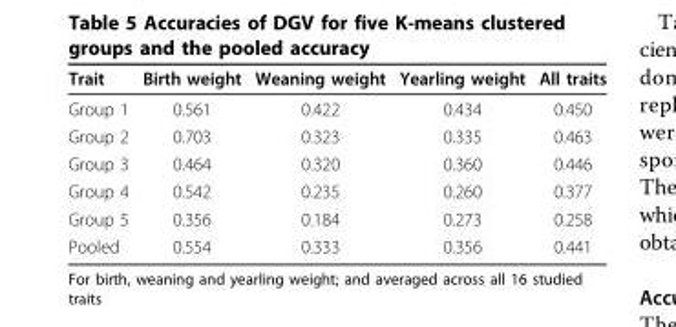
<table><thead><tr><td>Trait</td><td>Birth weight</td><td>Weaning weight</td><td>Yearling weight</td><td>All traits</td></tr></thead><tbody><tr><td>Group 1</td><td>0.561</td><td>0.422</td><td>0.434</td><td>0.450</td></tr><tr><td>Group 2</td><td>0.703</td><td>0.323</td><td>0.335</td><td>0.463</td></tr><tr><td>Group 3</td><td>0.464</td><td>0.320</td><td>0.360</td><td>0.446</td></tr><tr><td>Group 4</td><td>0.542</td><td>0.235</td><td>0.260</td><td>0.377</td></tr><tr><td>Group 5</td><td>0.356</td><td>0.184</td><td>0.273</td><td>0.258</td></tr><tr><td>Pooled</td><td>0.554</td><td>0.333</td><td>0.356</td><td>0.441</td></tr></tbody></table>